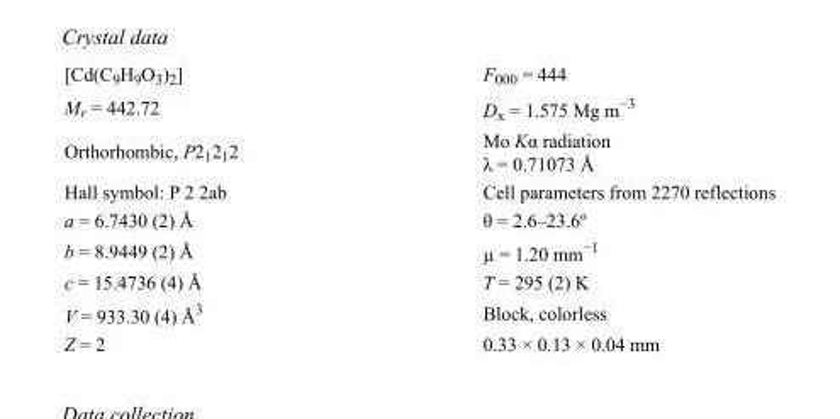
<table><tbody><tr><td>[Cd(C<sub>9</sub>H<sub>9</sub>O<sub>3</sub>)<sub>2</sub>]</td><td>F<sub>000</sub> = 444</td></tr><tr><td>M<sub>r</sub> = 442.72</td><td>D<sub>x</sub> = 1.575 Mg m<sup>−3</sup></td></tr><tr><td>Orthorhombic, P2<sub>1</sub>2<sub>1</sub>2</td><td>Mo Kα radiation λ = 0.71073 Å</td></tr><tr><td>Hall symbol: P 2 2ab</td><td>Cell parameters from 2270 reflections</td></tr><tr><td>a = 6.7430 (2) Å</td><td>θ = 2.6–23.6º</td></tr><tr><td>b = 8.9449 (2) Å</td><td>µ = 1.20 mm<sup>−1</sup></td></tr><tr><td>c = 15.4736 (4) Å</td><td>T = 295 (2) K</td></tr><tr><td>V = 933.30 (4) Å<sup>3</sup></td><td>Block, colorless</td></tr><tr><td>Z = 2</td><td>0.33 × 0.13 × 0.04 mm</td></tr></tbody></table>